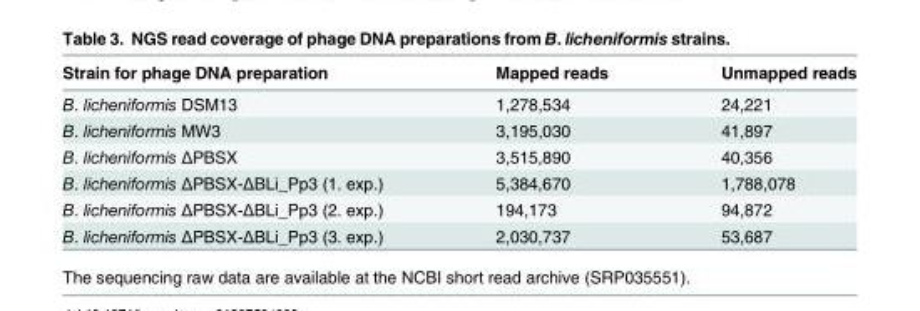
<table><thead><tr><td>Strain for phage DNA preparation</td><td>Mapped reads</td><td>Unmapped reads</td></tr></thead><tbody><tr><td>B. licheniformis DSM13</td><td>1,278,534</td><td>24,221</td></tr><tr><td>B. licheniformis MW3</td><td>3,195,030</td><td>41,897</td></tr><tr><td>B. licheniformis ΔPBSX</td><td>3,515,890</td><td>40,356</td></tr><tr><td>B. licheniformis ΔPBSX-ΔBLi_Pp3 (1. exp.)</td><td>5,384,670</td><td>1,788,078</td></tr><tr><td>B. licheniformis ΔPBSX-ΔBLi_Pp3 (2. exp.)</td><td>194,173</td><td>94,872</td></tr><tr><td>B. licheniformis ΔPBSX-ΔBLi_Pp3 (3. exp.)</td><td>2,030,737</td><td>53,687</td></tr></tbody></table>